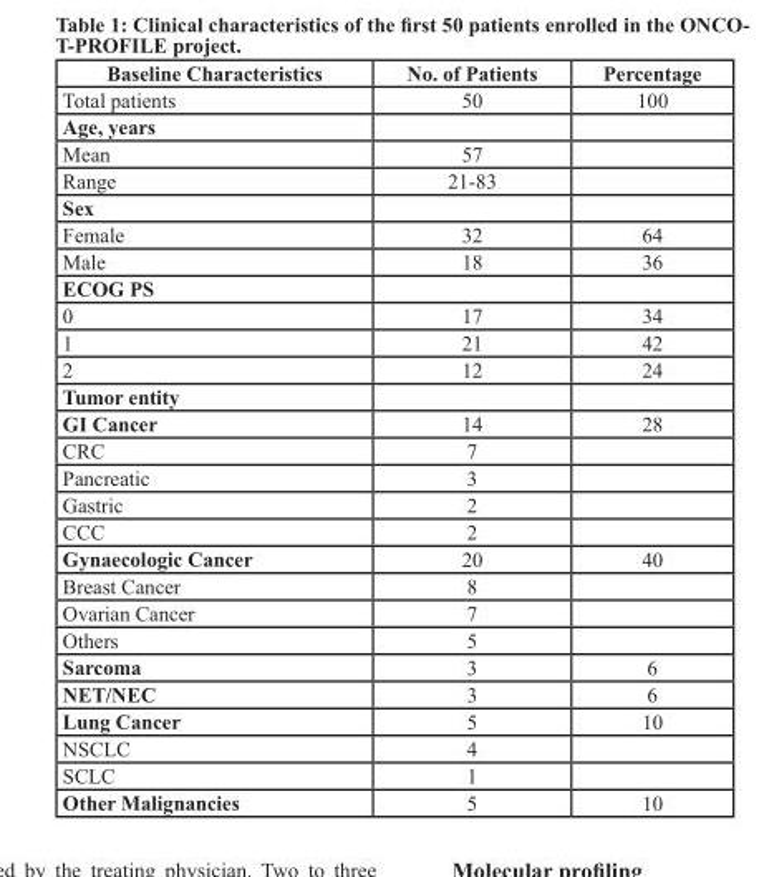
<table><thead><tr><td>Baseline Characteristics</td><td>No. of Patients</td><td>Percentage</td></tr></thead><tbody><tr><td>Total patients</td><td>50</td><td>100</td></tr><tr><td colspan="3">Age, years</td></tr><tr><td>Mean</td><td>57</td><td></td></tr><tr><td>Range</td><td>21-83</td><td></td></tr><tr><td colspan="3">Sex</td></tr><tr><td>Female</td><td>32</td><td>64</td></tr><tr><td>Male</td><td>18</td><td>36</td></tr><tr><td colspan="3">ECOG PS</td></tr><tr><td>0</td><td>17</td><td>34</td></tr><tr><td>1</td><td>21</td><td>42</td></tr><tr><td>2</td><td>12</td><td>24</td></tr><tr><td colspan="3">Tumor entity</td></tr><tr><td>GI Cancer</td><td>14</td><td>28</td></tr><tr><td>CRC</td><td>7</td><td></td></tr><tr><td>Pancreatic</td><td>3</td><td></td></tr><tr><td>Gastric</td><td>2</td><td></td></tr><tr><td>CCC</td><td>2</td><td></td></tr><tr><td>Gynaecologic Cancer</td><td>20</td><td>40</td></tr><tr><td>Breast Cancer</td><td>8</td><td></td></tr><tr><td>Ovarian Cancer</td><td>7</td><td></td></tr><tr><td>Others</td><td>5</td><td></td></tr><tr><td>Sarcoma</td><td>3</td><td>6</td></tr><tr><td>NET/NEC</td><td>3</td><td>6</td></tr><tr><td>Lung Cancer</td><td>5</td><td>10</td></tr><tr><td>NSCLC</td><td>4</td><td></td></tr><tr><td>SCLC</td><td>1</td><td></td></tr><tr><td>Other Malignancies</td><td>5</td><td>10</td></tr></tbody></table>